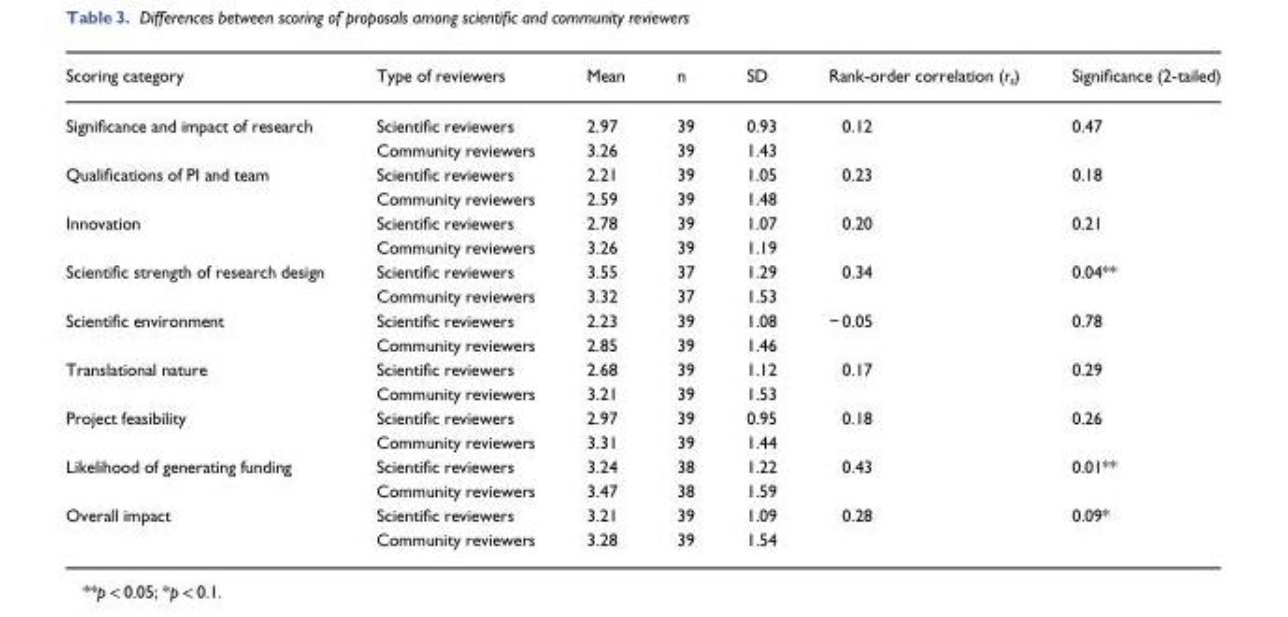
<table><thead><tr><td>Scoring category</td><td>Type of reviewers</td><td>Mean</td><td>n</td><td>SD</td><td>Rank-order correlation (r<sub>s</sub>)</td><td>Significance (2-tailed)</td></tr></thead><tbody><tr><td rowspan="2">Significance and impact of research</td><td>Scientific reviewers</td><td>2.97</td><td>39</td><td>0.93</td><td>0.12</td><td>0.47</td></tr><tr><td>Community reviewers</td><td>3.26</td><td>39</td><td>1.43</td><td></td><td></td></tr><tr><td rowspan="2">Qualifications of PI and team</td><td>Scientific reviewers</td><td>2.21</td><td>39</td><td>1.05</td><td>0.23</td><td>0.18</td></tr><tr><td>Community reviewers</td><td>2.59</td><td>39</td><td>1.48</td><td></td><td></td></tr><tr><td rowspan="2">Innovation</td><td>Scientific reviewers</td><td>2.78</td><td>39</td><td>1.07</td><td>0.20</td><td>0.21</td></tr><tr><td>Community reviewers</td><td>3.26</td><td>39</td><td>1.19</td><td></td><td></td></tr><tr><td rowspan="2">Scientific strength of research design</td><td>Scientific reviewers</td><td>3.55</td><td>37</td><td>1.29</td><td>0.34</td><td>0.04**</td></tr><tr><td>Community reviewers</td><td>3.32</td><td>37</td><td>1.53</td><td></td><td></td></tr><tr><td rowspan="2">Scientific environment</td><td>Scientific reviewers</td><td>2.23</td><td>39</td><td>1.08</td><td>− 0.05</td><td>0.78</td></tr><tr><td>Community reviewers</td><td>2.85</td><td>39</td><td>1.46</td><td></td><td></td></tr><tr><td rowspan="2">Translational nature</td><td>Scientific reviewers</td><td>2.68</td><td>39</td><td>1.12</td><td>0.17</td><td>0.29</td></tr><tr><td>Community reviewers</td><td>3.21</td><td>39</td><td>1.53</td><td></td><td></td></tr><tr><td rowspan="2">Project feasibility</td><td>Scientific reviewers</td><td>2.97</td><td>39</td><td>0.95</td><td>0.18</td><td>0.26</td></tr><tr><td>Community reviewers</td><td>3.31</td><td>39</td><td>1.44</td><td></td><td></td></tr><tr><td rowspan="2">Likelihood of generating funding</td><td>Scientific reviewers</td><td>3.24</td><td>38</td><td>1.22</td><td>0.43</td><td>0.01**</td></tr><tr><td>Community reviewers</td><td>3.47</td><td>38</td><td>1.59</td><td></td><td></td></tr><tr><td rowspan="2">Overall impact</td><td>Scientific reviewers</td><td>3.21</td><td>39</td><td>1.09</td><td>0.28</td><td>0.09*</td></tr><tr><td>Community reviewers</td><td>3.28</td><td>39</td><td>1.54</td><td></td><td></td></tr></tbody></table>